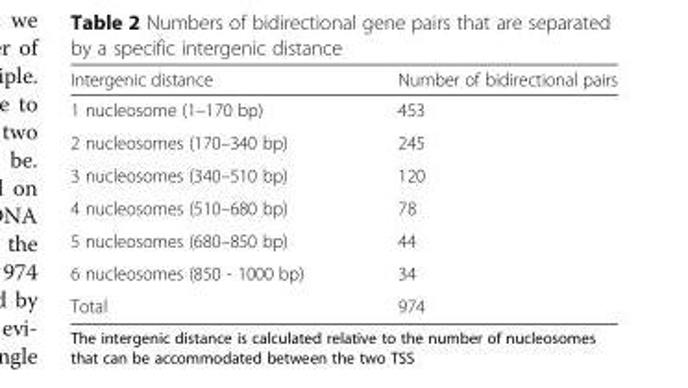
<table><thead><tr><td>Intergenic distance</td><td>Number of bidirectional pairs</td></tr></thead><tbody><tr><td>1 nucleosome (1–170 bp)</td><td>453</td></tr><tr><td>2 nucleosomes (170–340 bp)</td><td>245</td></tr><tr><td>3 nucleosomes (340–510 bp)</td><td>120</td></tr><tr><td>4 nucleosomes (510–680 bp)</td><td>78</td></tr><tr><td>5 nucleosomes (680–850 bp)</td><td>44</td></tr><tr><td>6 nucleosomes (850 - 1000 bp)</td><td>34</td></tr><tr><td>Total</td><td>974</td></tr></tbody></table>